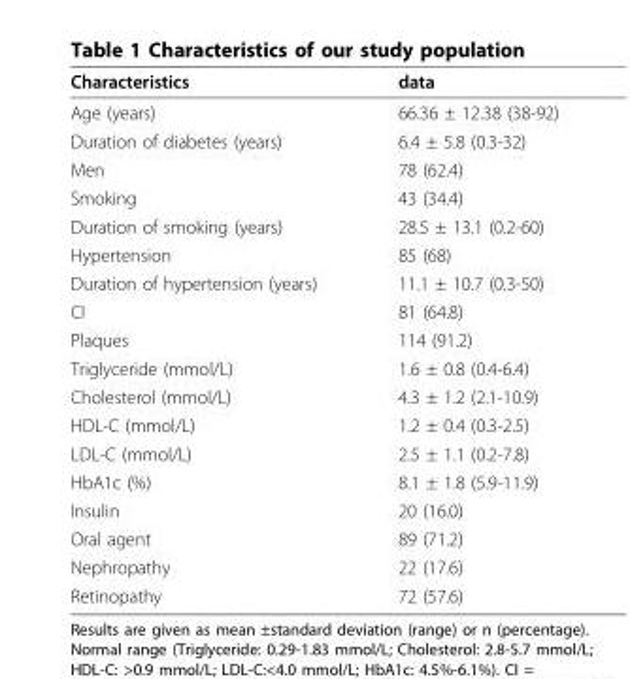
<table><thead><tr><td>Characteristics</td><td>data</td></tr></thead><tbody><tr><td>Age (years)</td><td>66.36 ± 12.38 (38-92)</td></tr><tr><td>Duration of diabetes (years)</td><td>6.4 ± 5.8 (0.3-32)</td></tr><tr><td>Men</td><td>78 (62.4)</td></tr><tr><td>Smoking</td><td>43 (34.4)</td></tr><tr><td>Duration of smoking (years)</td><td>28.5 ± 13.1 (0.2-60)</td></tr><tr><td>Hypertension</td><td>85 (68)</td></tr><tr><td>Duration of hypertension (years)</td><td>11.1 ± 10.7 (0.3-50)</td></tr><tr><td>CI</td><td>81 (64.8)</td></tr><tr><td>Plaques</td><td>114 (91.2)</td></tr><tr><td>Triglyceride (mmol/L)</td><td>1.6 ± 0.8 (0.4-6.4)</td></tr><tr><td>Cholesterol (mmol/L)</td><td>4.3 ± 1.2 (2.1-10.9)</td></tr><tr><td>HDL-C (mmol/L)</td><td>1.2 ± 0.4 (0.3-2.5)</td></tr><tr><td>LDL-C (mmol/L)</td><td>2.5 ± 1.1 (0.2-7.8)</td></tr><tr><td>HbA1c (%)</td><td>8.1 ± 1.8 (5.9-11.9)</td></tr><tr><td>Insulin</td><td>20 (16.0)</td></tr><tr><td>Oral agent</td><td>89 (71.2)</td></tr><tr><td>Nephropathy</td><td>22 (17.6)</td></tr><tr><td>Retinopathy</td><td>72 (57.6)</td></tr></tbody></table>